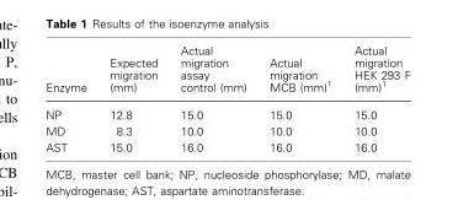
<table><thead><tr><td>Enzyme</td><td>Expected migration (mm)</td><td>Actual migration assay control (mm)</td><td>Actual migration MCB (mm)<sup>1</sup></td><td>Actual migration HEK 293 F (mm)<sup>1</sup></td></tr></thead><tbody><tr><td>NP</td><td>12.8</td><td>15.0</td><td>15.0</td><td>15.0</td></tr><tr><td>MD</td><td>8.3</td><td>10.0</td><td>10.0</td><td>10.0</td></tr><tr><td>AST</td><td>15.0</td><td>16.0</td><td>16.0</td><td>16.0</td></tr></tbody></table>